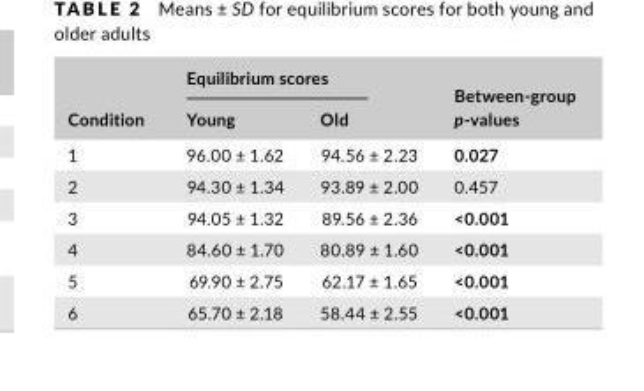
<table><thead><tr><td rowspan="2">Condition</td><td colspan="2">Equilibrium scores</td><td rowspan="2">Between‐group p‐values</td></tr><tr><td>Young</td><td>Old</td></tr></thead><tbody><tr><td>1</td><td>96.00 ± 1.62</td><td>94.56 ± 2.23</td><td>0.027</td></tr><tr><td>2</td><td>94.30 ± 1.34</td><td>93.89 ± 2.00</td><td>0.457</td></tr><tr><td>3</td><td>94.05 ± 1.32</td><td>89.56 ± 2.36</td><td>&lt;0.001</td></tr><tr><td>4</td><td>84.60 ± 1.70</td><td>80.89 ± 1.60</td><td>&lt;0.001</td></tr><tr><td>5</td><td>69.90 ± 2.75</td><td>62.17 ± 1.65</td><td>&lt;0.001</td></tr><tr><td>6</td><td>65.70 ± 2.18</td><td>58.44 ± 2.55</td><td>&lt;0.001</td></tr></tbody></table>